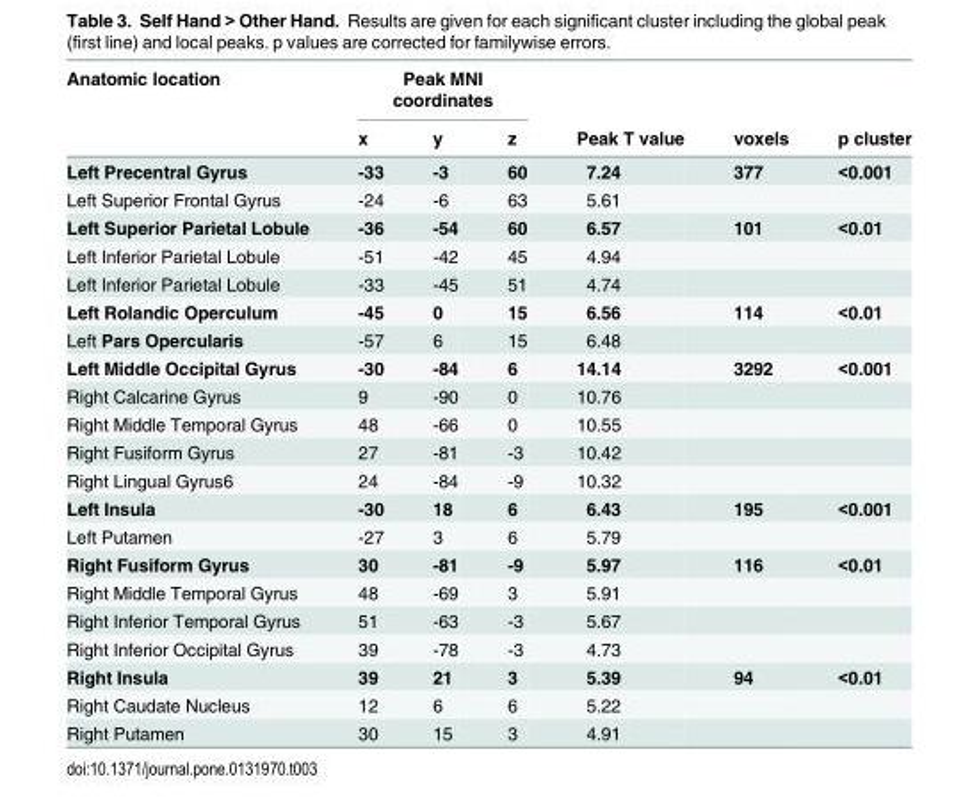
<table><thead><tr><td rowspan="2">Anatomic location</td><td colspan="3">Peak MNI coordinates</td><td rowspan="2">Peak T value</td><td rowspan="2">voxels</td><td rowspan="2">p cluster</td></tr><tr><td>x</td><td>y</td><td>z</td></tr></thead><tbody><tr><td>Left Precentral Gyrus</td><td>-33</td><td>-3</td><td>60</td><td>7.24</td><td>377</td><td>&lt;0.001</td></tr><tr><td>Left Superior Frontal Gyrus</td><td>-24</td><td>-6</td><td>63</td><td>5.61</td><td></td><td></td></tr><tr><td>Left Superior Parietal Lobule</td><td>-36</td><td>-54</td><td>60</td><td>6.57</td><td>101</td><td>&lt;0.01</td></tr><tr><td>Left Inferior Parietal Lobule</td><td>-51</td><td>-42</td><td>45</td><td>4.94</td><td></td><td></td></tr><tr><td>Left Inferior Parietal Lobule</td><td>-33</td><td>-45</td><td>51</td><td>4.74</td><td></td><td></td></tr><tr><td>Left Rolandic Operculum</td><td>-45</td><td>0</td><td>15</td><td>6.56</td><td>114</td><td>&lt;0.01</td></tr><tr><td>Left Pars Opercularis</td><td>-57</td><td>6</td><td>15</td><td>6.48</td><td></td><td></td></tr><tr><td>Left Middle Occipital Gyrus</td><td>-30</td><td>-84</td><td>6</td><td>14.14</td><td>3292</td><td>&lt;0.001</td></tr><tr><td>Right Calcarine Gyrus</td><td>9</td><td>-90</td><td>0</td><td>10.76</td><td></td><td></td></tr><tr><td>Right Middle Temporal Gyrus</td><td>48</td><td>-66</td><td>0</td><td>10.55</td><td></td><td></td></tr><tr><td>Right Fusiform Gyrus</td><td>27</td><td>-81</td><td>-3</td><td>10.42</td><td></td><td></td></tr><tr><td>Right Lingual Gyrus6</td><td>24</td><td>-84</td><td>-9</td><td>10.32</td><td></td><td></td></tr><tr><td>Left Insula</td><td>-30</td><td>18</td><td>6</td><td>6.43</td><td>195</td><td>&lt;0.001</td></tr><tr><td>Left Putamen</td><td>-27</td><td>3</td><td>6</td><td>5.79</td><td></td><td></td></tr><tr><td>Right Fusiform Gyrus</td><td>30</td><td>-81</td><td>-9</td><td>5.97</td><td>116</td><td>&lt;0.01</td></tr><tr><td>Right Middle Temporal Gyrus</td><td>48</td><td>-69</td><td>3</td><td>5.91</td><td></td><td></td></tr><tr><td>Right Inferior Temporal Gyrus</td><td>51</td><td>-63</td><td>-3</td><td>5.67</td><td></td><td></td></tr><tr><td>Right Inferior Occipital Gyrus</td><td>39</td><td>-78</td><td>-3</td><td>4.73</td><td></td><td></td></tr><tr><td>Right Insula</td><td>39</td><td>21</td><td>3</td><td>5.39</td><td>94</td><td>&lt;0.01</td></tr><tr><td>Right Caudate Nucleus</td><td>12</td><td>6</td><td>6</td><td>5.22</td><td></td><td></td></tr><tr><td>Right Putamen</td><td>30</td><td>15</td><td>3</td><td>4.91</td><td></td><td></td></tr></tbody></table>